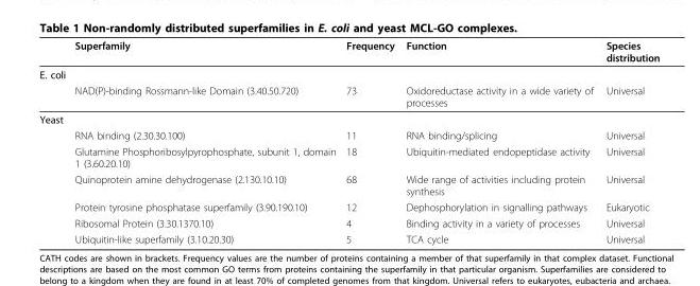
<table><thead><tr><td></td><td>Superfamily</td><td>Frequency</td><td>Function</td><td>Species distribution</td></tr></thead><tbody><tr><td colspan="5">E. coli</td></tr><tr><td></td><td>NAD(P)-binding Rossmann-like Domain (3.40.50.720)</td><td>73</td><td>Oxidoreductase activity in a wide variety of processes</td><td>Universal</td></tr><tr><td colspan="5">Yeast</td></tr><tr><td></td><td>RNA binding (2.30.30.100)</td><td>11</td><td>RNA binding/splicing</td><td>Universal</td></tr><tr><td></td><td>Glutamine Phosphoribosylpyrophosphate, subunit 1, domain 1 (3.60.20.10)</td><td>18</td><td>Ubiquitin-mediated endopeptidase activity</td><td>Universal</td></tr><tr><td></td><td>Quinoprotein amine dehydrogenase (2.130.10.10)</td><td>68</td><td>Wide range of activities including protein synthesis</td><td>Universal</td></tr><tr><td></td><td>Protein tyrosine phosphatase superfamily (3.90.190.10)</td><td>12</td><td>Dephosphorylation in signalling pathways</td><td>Eukaryotic</td></tr><tr><td></td><td>Ribosomal Protein (3.30.1370.10)</td><td>4</td><td>Binding activity in a variety of processes</td><td>Universal</td></tr><tr><td></td><td>Ubiquitin-like superfamily (3.10.20.30)</td><td>5</td><td>TCA cycle</td><td>Universal</td></tr></tbody></table>